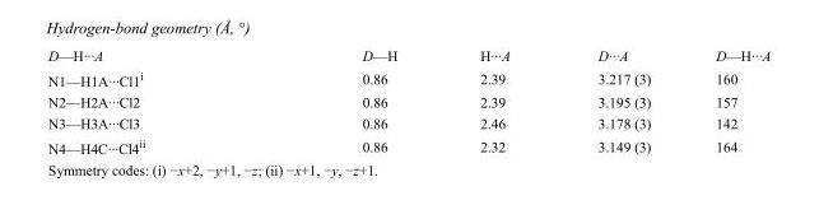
<table><tbody><tr><td>D—H···A</td><td>D—H</td><td>H···A</td><td>D···A</td><td>D—H···A</td></tr><tr><td>N1—H1A···Cl1<sup>i</sup></td><td>0.86</td><td>2.39</td><td>3.217 (3)</td><td>160</td></tr><tr><td>N2—H2A···Cl2</td><td>0.86</td><td>2.39</td><td>3.195 (3)</td><td>157</td></tr><tr><td>N3—H3A···Cl3</td><td>0.86</td><td>2.46</td><td>3.178 (3)</td><td>142</td></tr><tr><td>N4—H4C···Cl4<sup>ii</sup></td><td>0.86</td><td>2.32</td><td>3.149 (3)</td><td>164</td></tr></tbody></table>